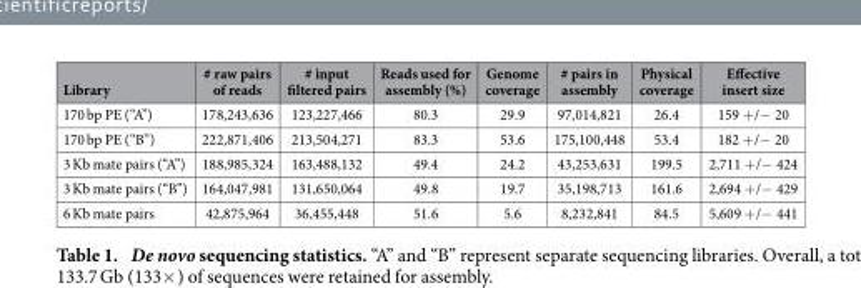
<table><thead><tr><td>Library</td><td># raw pairs of reads</td><td># input filtered pairs</td><td>Reads used for assembly (%)</td><td>Genome coverage</td><td># pairs in assembly</td><td>Physical coverage</td><td>Effective insert size</td></tr></thead><tbody><tr><td>170 bp PE (“A”)</td><td>178,243,636</td><td>123,227,466</td><td>80.3</td><td>29.9</td><td>97,014,821</td><td>26.4</td><td>159 + /− 20</td></tr><tr><td>170 bp PE (“B”)</td><td>222,871,406</td><td>213,504,271</td><td>83.3</td><td>53.6</td><td>175,100,448</td><td>53.4</td><td>182 + /− 20</td></tr><tr><td>3 Kb mate pairs (“A”)</td><td>188,985,324</td><td>163,488,132</td><td>49.4</td><td>24.2</td><td>43,253,631</td><td>199.5</td><td>2,711 + /− 424</td></tr><tr><td>3 Kb mate pairs (“B”)</td><td>164,047,981</td><td>131,650,064</td><td>49.8</td><td>19.7</td><td>35,198,713</td><td>161.6</td><td>2,694 + /− 429</td></tr><tr><td>6 Kb mate pairs</td><td>42,875,964</td><td>36,455,448</td><td>51.6</td><td>5.6</td><td>8,232,841</td><td>84.5</td><td>5,609 + /− 441</td></tr></tbody></table>